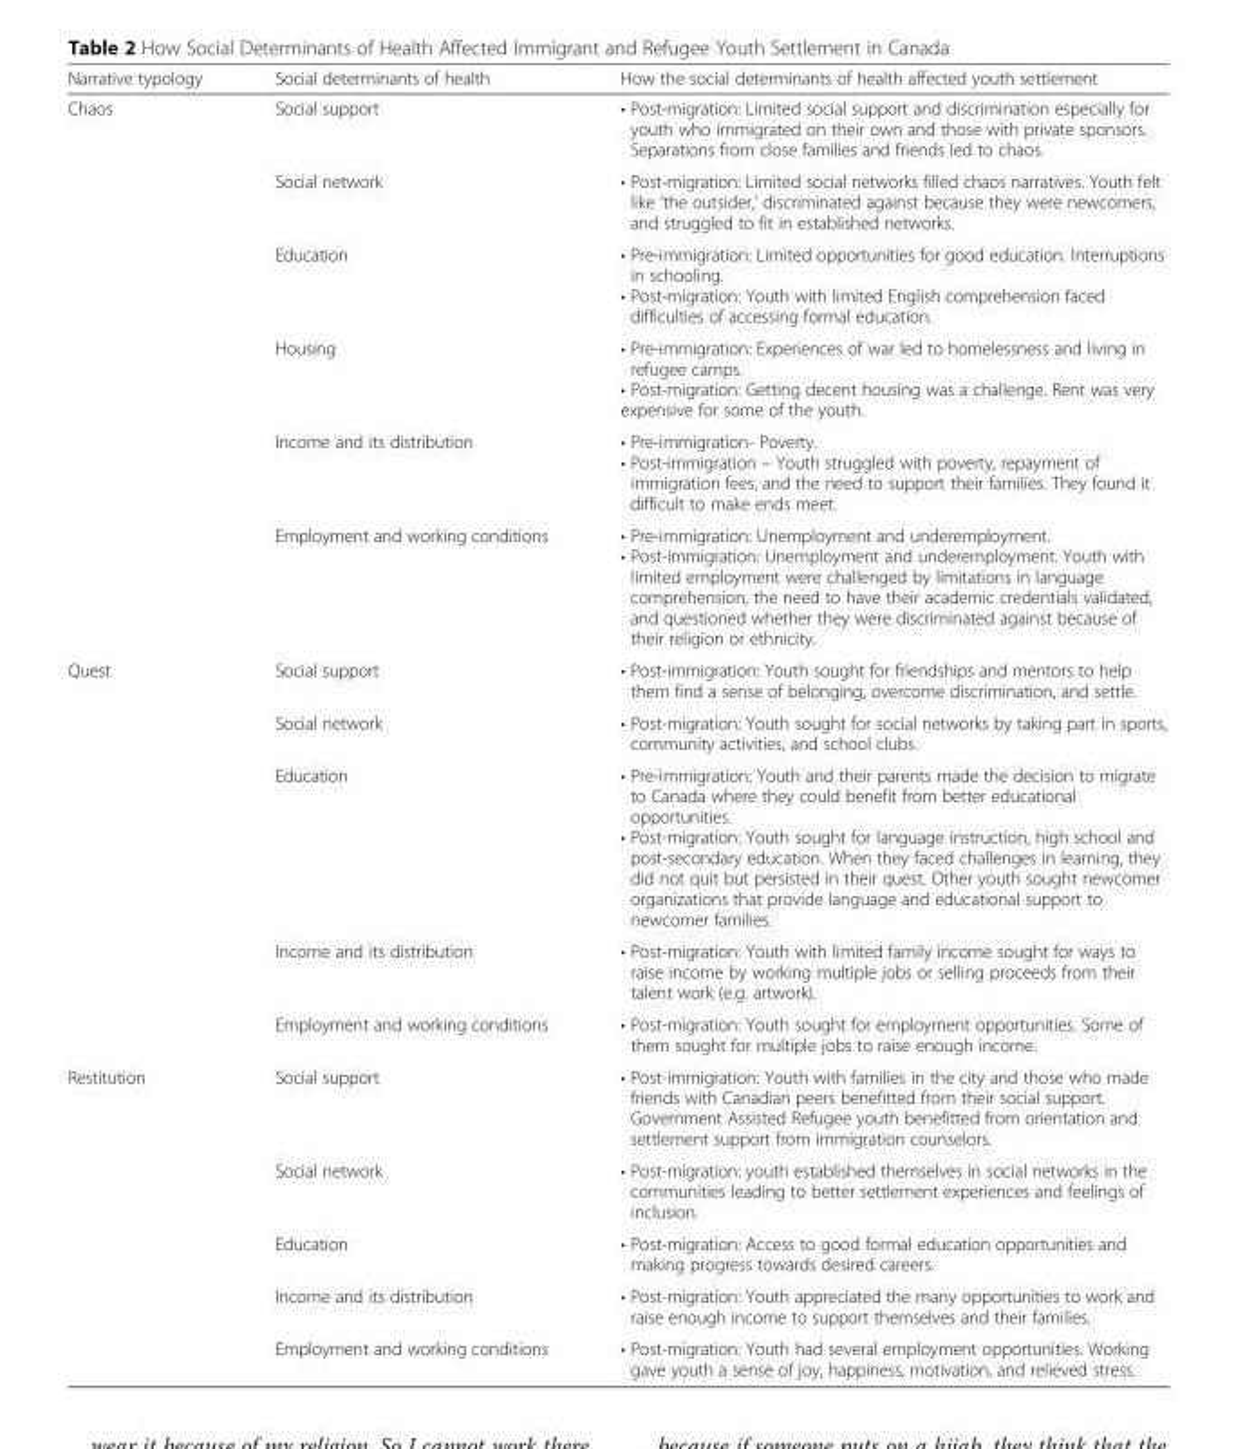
<table><thead><tr><td>Narrative typology</td><td>Social determinants of health</td><td>How the social determinants of health affected youth settlement</td></tr></thead><tbody><tr><td rowspan="6">Chaos</td><td>Social support</td><td>• Post-migration: Limited social support and discrimination especially for youth who immigrated on their own and those with private sponsors. Separations from close families and friends led to chaos.</td></tr><tr><td>Social network</td><td>• Post-migration: Limited social networks filled chaos narratives. Youth felt like ‘the outsider,’ discriminated against because they were newcomers, and struggled to fit in established networks.</td></tr><tr><td>Education</td><td>• Pre-immigration: Limited opportunities for good education. Interruptions in schooling. • Post-migration: Youth with limited English comprehension faced difficulties of accessing formal education.</td></tr><tr><td>Housing</td><td>• Pre-immigration: Experiences of war led to homelessness and living in refugee camps. • Post-migration: Getting decent housing was a challenge. Rent was very expensive for some of the youth.</td></tr><tr><td>Income and its distribution</td><td>• Pre-immigration- Poverty. • Post-immigration – Youth struggled with poverty, repayment of immigration fees, and the need to support their families. They found it difficult to make ends meet.</td></tr><tr><td>Employment and working conditions</td><td>• Pre-immigration: Unemployment and underemployment. • Post-immigration: Unemployment and underemployment. Youth with limited employment were challenged by limitations in language comprehension, the need to have their academic credentials validated, and questioned whether they were discriminated against because of their religion or ethnicity.</td></tr><tr><td rowspan="5">Quest</td><td>Social support</td><td>• Post-immigration: Youth sought for friendships and mentors to help them find a sense of belonging, overcome discrimination, and settle.</td></tr><tr><td>Social network</td><td>• Post-migration: Youth sought for social networks by taking part in sports, community activities, and school clubs.</td></tr><tr><td>Education</td><td>• Pre-immigration: Youth and their parents made the decision to migrate to Canada where they could benefit from better educational opportunities. • Post-migration: Youth sought for language instruction, high school and post-secondary education. When they faced challenges in learning, they did not quit but persisted in their quest. Other youth sought newcomer organizations that provide language and educational support to newcomer families.</td></tr><tr><td>Income and its distribution</td><td>• Post-migration: Youth with limited family income sought for ways to raise income by working multiple jobs or selling proceeds from their talent work (e.g. artwork).</td></tr><tr><td>Employment and working conditions</td><td>• Post-migration: Youth sought for employment opportunities. Some of them sought for multiple jobs to raise enough income.</td></tr><tr><td rowspan="5">Restitution</td><td>Social support</td><td>• Post-immigration: Youth with families in the city and those who made friends with Canadian peers benefitted from their social support. Government Assisted Refugee youth benefitted from orientation and settlement support from immigration counselors.</td></tr><tr><td>Social network</td><td>• Post-migration: youth established themselves in social networks in the communities leading to better settlement experiences and feelings of inclusion.</td></tr><tr><td>Education</td><td>• Post-migration: Access to good formal education opportunities and making progress towards desired careers.</td></tr><tr><td>Income and its distribution</td><td>• Post-migration: Youth appreciated the many opportunities to work and raise enough income to support themselves and their families.</td></tr><tr><td>Employment and working conditions</td><td>• Post-migration: Youth had several employment opportunities. Working gave youth a sense of joy, happiness, motivation, and relieved stress.</td></tr></tbody></table>